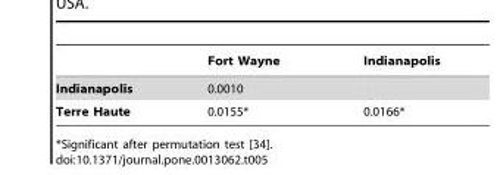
<table><thead><tr><td></td><td>Fort Wayne</td><td>Indianapolis</td></tr></thead><tbody><tr><td>Indianapolis</td><td>0.0010</td><td></td></tr><tr><td>Terre Haute</td><td>0.0155*</td><td>0.0166*</td></tr></tbody></table>